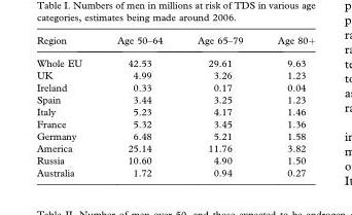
<table><thead><tr><td>Region</td><td>Age 50–64</td><td>Age 65–79</td><td>Age 80+</td></tr></thead><tbody><tr><td>Whole EU</td><td>42.53</td><td>29.61</td><td>9.63</td></tr><tr><td>UK</td><td>4.99</td><td>3.26</td><td>1.23</td></tr><tr><td>Ireland</td><td>0.33</td><td>0.17</td><td>0.04</td></tr><tr><td>Spain</td><td>3.44</td><td>3.25</td><td>1.23</td></tr><tr><td>Italy</td><td>5.23</td><td>4.17</td><td>1.46</td></tr><tr><td>France</td><td>5.32</td><td>3.45</td><td>1.36</td></tr><tr><td>Germany</td><td>6.48</td><td>5.21</td><td>1.58</td></tr><tr><td>America</td><td>25.14</td><td>11.76</td><td>3.82</td></tr><tr><td>Russia</td><td>10.60</td><td>4.90</td><td>1.50</td></tr><tr><td>Australia</td><td>1.72</td><td>0.94</td><td>0.27</td></tr></tbody></table>